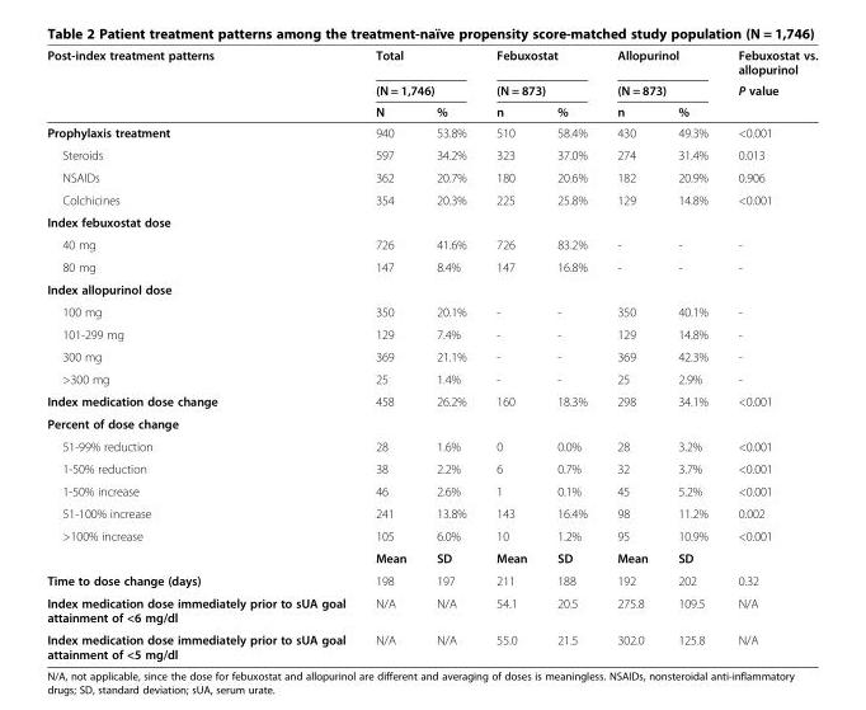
<table><thead><tr><td rowspan="3">Post-index treatment patterns</td><td rowspan="2" colspan="2">Total (N = 1,746)</td><td rowspan="2" colspan="2">Febuxostat (N = 873)</td><td rowspan="2" colspan="2">Allopurinol (N = 873)</td><td rowspan="3">Febuxostat vs. allopurinol P value</td></tr><tr></tr><tr><td>N</td><td>%</td><td>n</td><td>%</td><td>n</td><td>%</td></tr></thead><tbody><tr><td>Prophylaxis treatment</td><td>940</td><td>53.8%</td><td>510</td><td>58.4%</td><td>430</td><td>49.3%</td><td>&lt;0.001</td></tr><tr><td>Steroids</td><td>597</td><td>34.2%</td><td>323</td><td>37.0%</td><td>274</td><td>31.4%</td><td>0.013</td></tr><tr><td>NSAIDs</td><td>362</td><td>20.7%</td><td>180</td><td>20.6%</td><td>182</td><td>20.9%</td><td>0.906</td></tr><tr><td>Colchicines</td><td>354</td><td>20.3%</td><td>225</td><td>25.8%</td><td>129</td><td>14.8%</td><td>&lt;0.001</td></tr><tr><td colspan="8">Index febuxostat dose</td></tr><tr><td>40 mg</td><td>726</td><td>41.6%</td><td>726</td><td>83.2%</td><td>-</td><td>-</td><td>-</td></tr><tr><td>80 mg</td><td>147</td><td>8.4%</td><td>147</td><td>16.8%</td><td>-</td><td>-</td><td>-</td></tr><tr><td colspan="8">Index allopurinol dose</td></tr><tr><td>100 mg</td><td>350</td><td>20.1%</td><td>-</td><td>-</td><td>350</td><td>40.1%</td><td>-</td></tr><tr><td>101-299 mg</td><td>129</td><td>7.4%</td><td>-</td><td>-</td><td>129</td><td>14.8%</td><td>-</td></tr><tr><td>300 mg</td><td>369</td><td>21.1%</td><td>-</td><td>-</td><td>369</td><td>42.3%</td><td>-</td></tr><tr><td>&gt;300 mg</td><td>25</td><td>1.4%</td><td>-</td><td>-</td><td>25</td><td>2.9%</td><td>-</td></tr><tr><td>Index medication dose change</td><td>458</td><td>26.2%</td><td>160</td><td>18.3%</td><td>298</td><td>34.1%</td><td>&lt;0.001</td></tr><tr><td colspan="8">Percent of dose change</td></tr><tr><td>51-99% reduction</td><td>28</td><td>1.6%</td><td>0</td><td>0.0%</td><td>28</td><td>3.2%</td><td>&lt;0.001</td></tr><tr><td>1-50% reduction</td><td>38</td><td>2.2%</td><td>6</td><td>0.7%</td><td>32</td><td>3.7%</td><td>&lt;0.001</td></tr><tr><td>1-50% increase</td><td>46</td><td>2.6%</td><td>1</td><td>0.1%</td><td>45</td><td>5.2%</td><td>&lt;0.001</td></tr><tr><td>51-100% increase</td><td>241</td><td>13.8%</td><td>143</td><td>16.4%</td><td>98</td><td>11.2%</td><td>0.002</td></tr><tr><td rowspan="2">&gt;100% increase</td><td>105</td><td>6.0%</td><td>10</td><td>1.2%</td><td>95</td><td>10.9%</td><td>&lt;0.001</td></tr><tr><td>Mean</td><td>SD</td><td>Mean</td><td>SD</td><td>Mean</td><td>SD</td><td></td></tr><tr><td>Time to dose change (days)</td><td>198</td><td>197</td><td>211</td><td>188</td><td>192</td><td>202</td><td>0.32</td></tr><tr><td>Index medication dose immediately prior to sUA goal attainment of &lt;6 mg/dl</td><td>N/A</td><td>N/A</td><td>54.1</td><td>20.5</td><td>275.8</td><td>109.5</td><td>N/A</td></tr><tr><td>Index medication dose immediately prior to sUA goal attainment of &lt;5 mg/dl</td><td>N/A</td><td>N/A</td><td>55.0</td><td>21.5</td><td>302.0</td><td>125.8</td><td>N/A</td></tr></tbody></table>